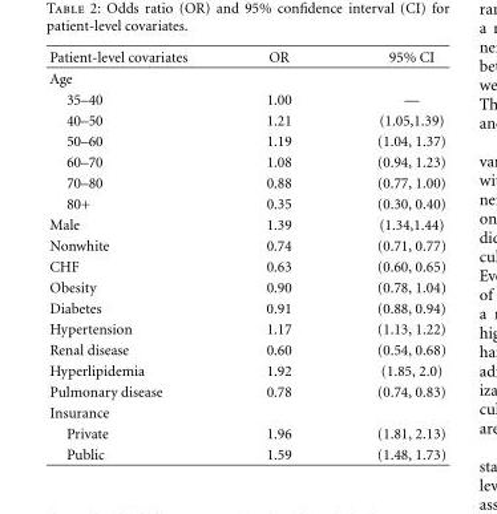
<table><thead><tr><td>Patient-level covariates</td><td>OR</td><td>95% CI</td></tr></thead><tbody><tr><td colspan="3">Age</td></tr><tr><td>35–40</td><td>1.00</td><td>—</td></tr><tr><td>40–50</td><td>1.21</td><td>(1.05,1.39)</td></tr><tr><td>50–60</td><td>1.19</td><td>(1.04, 1.37)</td></tr><tr><td>60–70</td><td>1.08</td><td>(0.94, 1.23)</td></tr><tr><td>70–80</td><td>0.88</td><td>(0.77, 1.00)</td></tr><tr><td>80+</td><td>0.35</td><td>(0.30, 0.40)</td></tr><tr><td>Male</td><td>1.39</td><td>(1.34,1.44)</td></tr><tr><td>Nonwhite</td><td>0.74</td><td>(0.71, 0.77)</td></tr><tr><td>CHF</td><td>0.63</td><td>(0.60, 0.65)</td></tr><tr><td>Obesity</td><td>0.90</td><td>(0.78, 1.04)</td></tr><tr><td>Diabetes</td><td>0.91</td><td>(0.88, 0.94)</td></tr><tr><td>Hypertension</td><td>1.17</td><td>(1.13, 1.22)</td></tr><tr><td>Renal disease</td><td>0.60</td><td>(0.54, 0.68)</td></tr><tr><td>Hyperlipidemia</td><td>1.92</td><td>(1.85, 2.0)</td></tr><tr><td>Pulmonary disease</td><td>0.78</td><td>(0.74, 0.83)</td></tr><tr><td colspan="3">Insurance</td></tr><tr><td>Private</td><td>1.96</td><td>(1.81, 2.13)</td></tr><tr><td>Public</td><td>1.59</td><td>(1.48, 1.73)</td></tr></tbody></table>